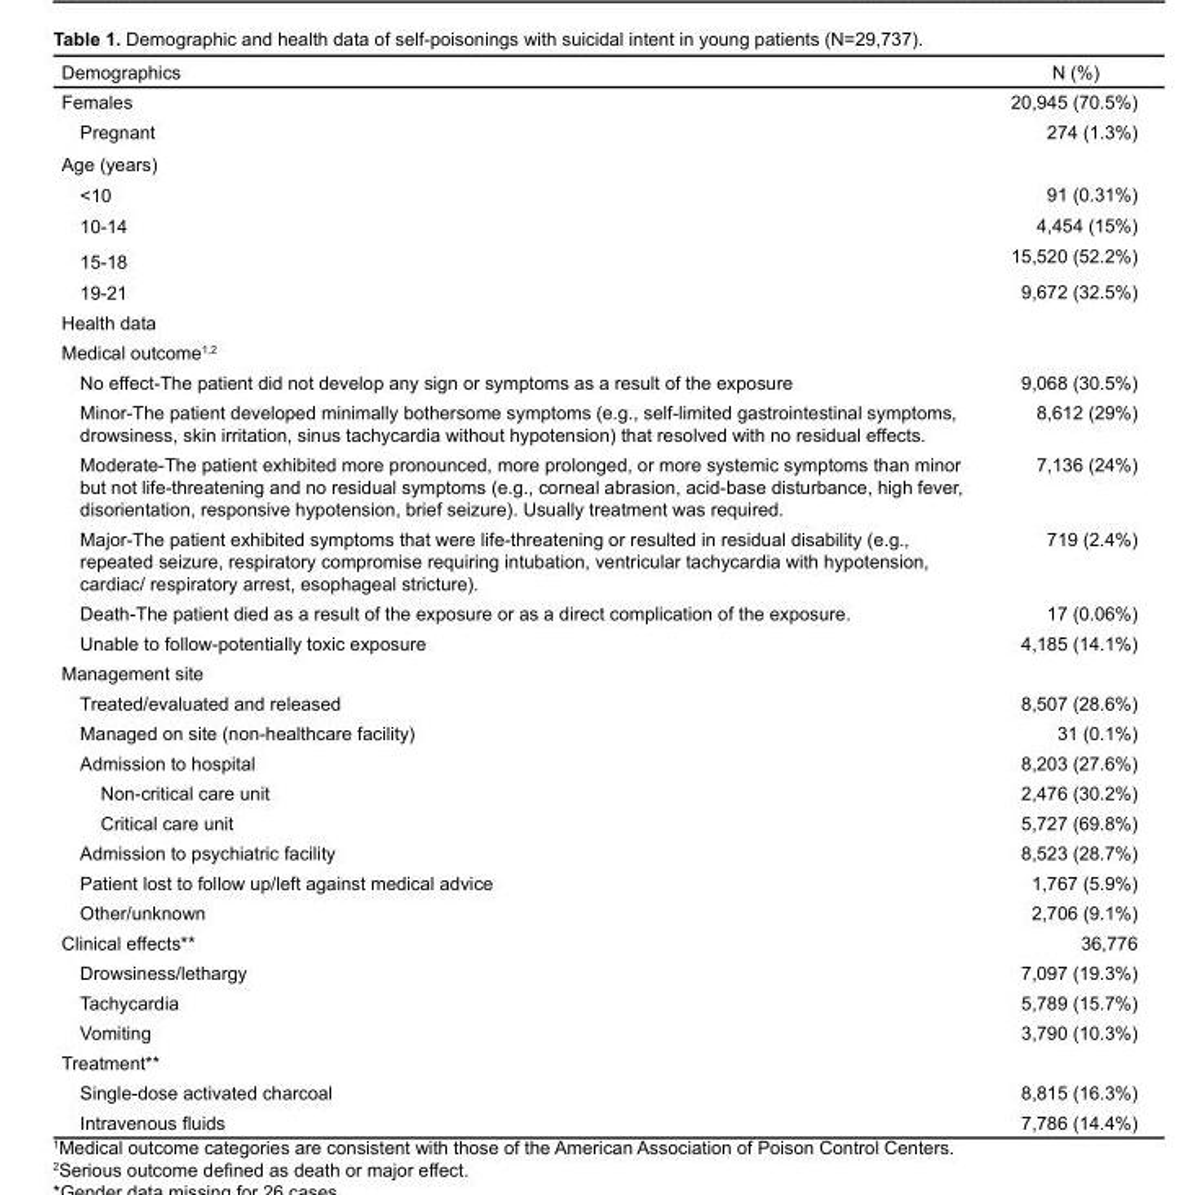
<table><thead><tr><td>Demographics</td><td>N (%)</td></tr></thead><tbody><tr><td>Females</td><td>20,945 (70.5%)</td></tr><tr><td>Pregnant</td><td>274 (1.3%)</td></tr><tr><td colspan="2">Age (years)</td></tr><tr><td>&lt;10</td><td>91 (0.31%)</td></tr><tr><td>10-14</td><td>4,454 (15%)</td></tr><tr><td>15-18</td><td>15,520 (52.2%)</td></tr><tr><td>19-21</td><td>9,672 (32.5%)</td></tr><tr><td colspan="2">Health data</td></tr><tr><td colspan="2">Medical outcome<sup>1</sup>,<sup>2</sup></td></tr><tr><td>No effect-The patient did not develop any sign or symptoms as a result of the exposure</td><td>9,068 (30.5%)</td></tr><tr><td>Minor-The patient developed minimally bothersome symptoms (e.g., self-limited gastrointestinal symptoms, drowsiness, skin irritation, sinus tachycardia without hypotension) that resolved with no residual effects.</td><td>8,612 (29%)</td></tr><tr><td>Moderate-The patient exhibited more pronounced, more prolonged, or more systemic symptoms than minor but not life-threatening and no residual symptoms (e.g., corneal abrasion, acid-base disturbance, high fever, disorientation, responsive hypotension, brief seizure). Usually treatment was required.</td><td>7,136 (24%)</td></tr><tr><td>Major-The patient exhibited symptoms that were life-threatening or resulted in residual disability (e.g., repeated seizure, respiratory compromise requiring intubation, ventricular tachycardia with hypotension, cardiac/ respiratory arrest, esophageal stricture).</td><td>719 (2.4%)</td></tr><tr><td>Death-The patient died as a result of the exposure or as a direct complication of the exposure.</td><td>17 (0.06%)</td></tr><tr><td>Unable to follow-potentially toxic exposure</td><td>4,185 (14.1%)</td></tr><tr><td colspan="2">Management site</td></tr><tr><td>Treated/evaluated and released</td><td>8,507 (28.6%)</td></tr><tr><td>Managed on site (non-healthcare facility)</td><td>31 (0.1%)</td></tr><tr><td>Admission to hospital</td><td>8,203 (27.6%)</td></tr><tr><td>Non-critical care unit</td><td>2,476 (30.2%)</td></tr><tr><td>Critical care unit</td><td>5,727 (69.8%)</td></tr><tr><td>Admission to psychiatric facility</td><td>8,523 (28.7%)</td></tr><tr><td>Patient lost to follow up/left against medical advice</td><td>1,767 (5.9%)</td></tr><tr><td>Other/unknown</td><td>2,706 (9.1%)</td></tr><tr><td>Clinical effects**</td><td>36,776</td></tr><tr><td>Drowsiness/lethargy</td><td>7,097 (19.3%)</td></tr><tr><td>Tachycardia</td><td>5,789 (15.7%)</td></tr><tr><td>Vomiting</td><td>3,790 (10.3%)</td></tr><tr><td colspan="2">Treatment**</td></tr><tr><td>Single-dose activated charcoal</td><td>8,815 (16.3%)</td></tr><tr><td>Intravenous fluids</td><td>7,786 (14.4%)</td></tr></tbody></table>